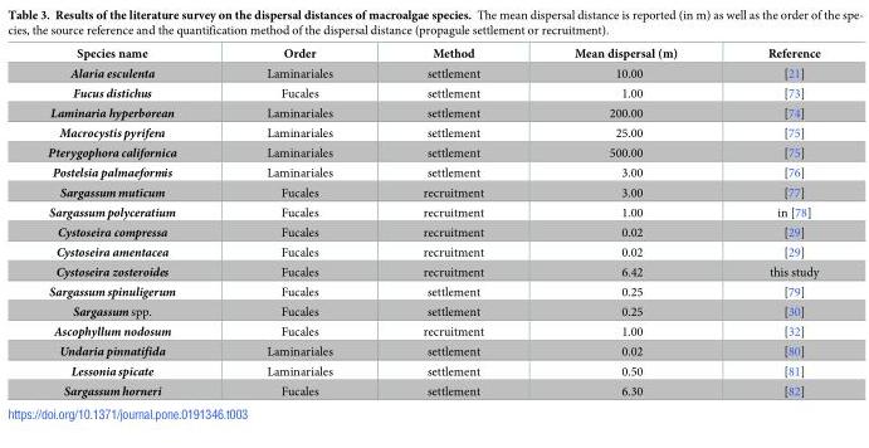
<table><thead><tr><td>Species name</td><td>Order</td><td>Method</td><td>Mean dispersal (m)</td><td>Reference</td></tr></thead><tbody><tr><td>Alaria esculenta</td><td>Laminariales</td><td>settlement</td><td>10.00</td><td>[21]</td></tr><tr><td>Fucus distichus</td><td>Fucales</td><td>settlement</td><td>1.00</td><td>[73]</td></tr><tr><td>Laminaria hyperborean</td><td>Laminariales</td><td>settlement</td><td>200.00</td><td>[74]</td></tr><tr><td>Macrocystis pyrifera</td><td>Laminariales</td><td>settlement</td><td>25.00</td><td>[75]</td></tr><tr><td>Pterygophora californica</td><td>Laminariales</td><td>settlement</td><td>500.00</td><td>[75]</td></tr><tr><td>Postelsia palmaeformis</td><td>Laminariales</td><td>settlement</td><td>3.00</td><td>[76]</td></tr><tr><td>Sargassum muticum</td><td>Fucales</td><td>recruitment</td><td>3.00</td><td>[77]</td></tr><tr><td>Sargassum polyceratium</td><td>Fucales</td><td>recruitment</td><td>1.00</td><td>in [78]</td></tr><tr><td>Cystoseira compressa</td><td>Fucales</td><td>recruitment</td><td>0.02</td><td>[29]</td></tr><tr><td>Cystoseira amentacea</td><td>Fucales</td><td>recruitment</td><td>0.02</td><td>[29]</td></tr><tr><td>Cystoseira zosteroides</td><td>Fucales</td><td>recruitment</td><td>6.42</td><td>this study</td></tr><tr><td>Sargassum spinuligerum</td><td>Fucales</td><td>settlement</td><td>0.25</td><td>[79]</td></tr><tr><td>Sargassum spp.</td><td>Fucales</td><td>settlement</td><td>0.25</td><td>[30]</td></tr><tr><td>Ascophyllum nodosum</td><td>Fucales</td><td>recruitment</td><td>1.00</td><td>[32]</td></tr><tr><td>Undaria pinnatifida</td><td>Laminariales</td><td>settlement</td><td>0.02</td><td>[80]</td></tr><tr><td>Lessonia spicate</td><td>Laminariales</td><td>settlement</td><td>0.50</td><td>[81]</td></tr><tr><td>Sargassum horneri</td><td>Fucales</td><td>settlement</td><td>6.30</td><td>[82]</td></tr></tbody></table>